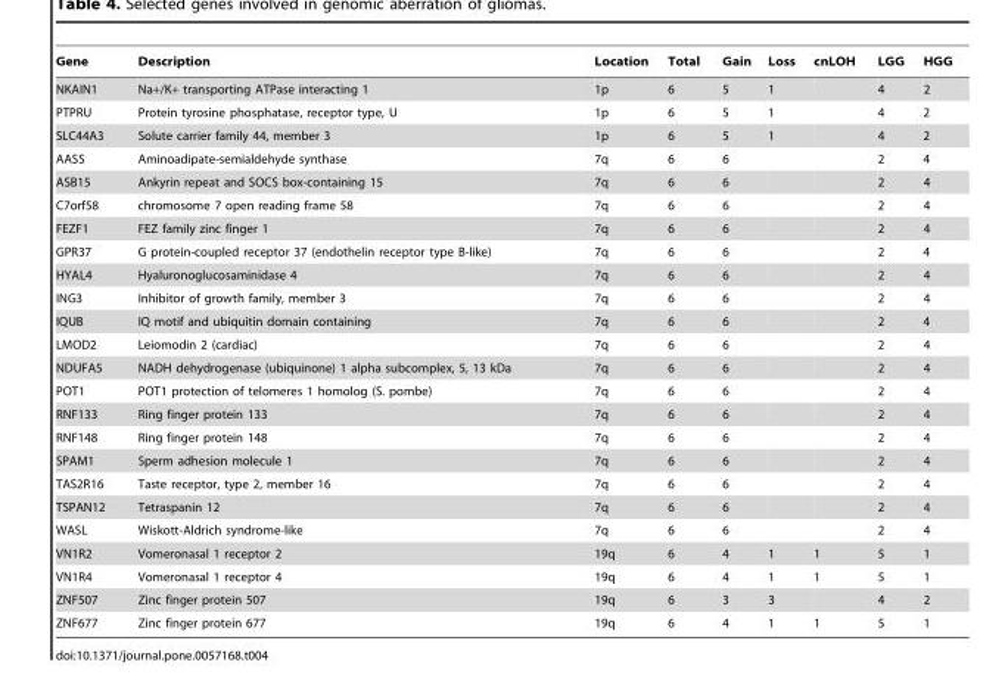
<table><thead><tr><td>Gene</td><td>Description</td><td>Location</td><td>Total</td><td>Gain</td><td>Loss</td><td>cnLOH</td><td>LGG</td><td>HGG</td></tr></thead><tbody><tr><td>NKAIN1</td><td>Na+/K+ transporting ATPase interacting 1</td><td>1p</td><td>6</td><td>5</td><td>1</td><td></td><td>4</td><td>2</td></tr><tr><td>PTPRU</td><td>Protein tyrosine phosphatase, receptor type, U</td><td>1p</td><td>6</td><td>5</td><td>1</td><td></td><td>4</td><td>2</td></tr><tr><td>SLC44A3</td><td>Solute carrier family 44, member 3</td><td>1p</td><td>6</td><td>5</td><td>1</td><td></td><td>4</td><td>2</td></tr><tr><td>AASS</td><td>Aminoadipate-semialdehyde synthase</td><td>7q</td><td>6</td><td>6</td><td></td><td></td><td>2</td><td>4</td></tr><tr><td>ASB15</td><td>Ankyrin repeat and SOCS box-containing 15</td><td>7q</td><td>6</td><td>6</td><td></td><td></td><td>2</td><td>4</td></tr><tr><td>C7orf58</td><td>chromosome 7 open reading frame 58</td><td>7q</td><td>6</td><td>6</td><td></td><td></td><td>2</td><td>4</td></tr><tr><td>FEZF1</td><td>FEZ family zinc finger 1</td><td>7q</td><td>6</td><td>6</td><td></td><td></td><td>2</td><td>4</td></tr><tr><td>GPR37</td><td>G protein-coupled receptor 37 (endothelin receptor type B-like)</td><td>7q</td><td>6</td><td>6</td><td></td><td></td><td>2</td><td>4</td></tr><tr><td>HYAL4</td><td>Hyaluronoglucosaminidase 4</td><td>7q</td><td>6</td><td>6</td><td></td><td></td><td>2</td><td>4</td></tr><tr><td>ING3</td><td>Inhibitor of growth family, member 3</td><td>7q</td><td>6</td><td>6</td><td></td><td></td><td>2</td><td>4</td></tr><tr><td>IQUB</td><td>IQ motif and ubiquitin domain containing</td><td>7q</td><td>6</td><td>6</td><td></td><td></td><td>2</td><td>4</td></tr><tr><td>LMOD2</td><td>Leiomodin 2 (cardiac)</td><td>7q</td><td>6</td><td>6</td><td></td><td></td><td>2</td><td>4</td></tr><tr><td>NDUFA5</td><td>NADH dehydrogenase (ubiquinone) 1 alpha subcomplex, 5, 13 kDa</td><td>7q</td><td>6</td><td>6</td><td></td><td></td><td>2</td><td>4</td></tr><tr><td>POT1</td><td>POT1 protection of telomeres 1 homolog (S. pombe)</td><td>7q</td><td>6</td><td>6</td><td></td><td></td><td>2</td><td>4</td></tr><tr><td>RNF133</td><td>Ring finger protein 133</td><td>7q</td><td>6</td><td>6</td><td></td><td></td><td>2</td><td>4</td></tr><tr><td>RNF148</td><td>Ring finger protein 148</td><td>7q</td><td>6</td><td>6</td><td></td><td></td><td>2</td><td>4</td></tr><tr><td>SPAM1</td><td>Sperm adhesion molecule 1</td><td>7q</td><td>6</td><td>6</td><td></td><td></td><td>2</td><td>4</td></tr><tr><td>TAS2R16</td><td>Taste receptor, type 2, member 16</td><td>7q</td><td>6</td><td>6</td><td></td><td></td><td>2</td><td>4</td></tr><tr><td>TSPAN12</td><td>Tetraspanin 12</td><td>7q</td><td>6</td><td>6</td><td></td><td></td><td>2</td><td>4</td></tr><tr><td>WASL</td><td>Wiskott-Aldrich syndrome-like</td><td>7q</td><td>6</td><td>6</td><td></td><td></td><td>2</td><td>4</td></tr><tr><td>VN1R2</td><td>Vomeronasal 1 receptor 2</td><td>19q</td><td>6</td><td>4</td><td>1</td><td>1</td><td>5</td><td>1</td></tr><tr><td>VN1R4</td><td>Vomeronasal 1 receptor 4</td><td>19q</td><td>6</td><td>4</td><td>1</td><td>1</td><td>5</td><td>1</td></tr><tr><td>ZNF507</td><td>Zinc finger protein 507</td><td>19q</td><td>6</td><td>3</td><td>3</td><td></td><td>4</td><td>2</td></tr><tr><td>ZNF677</td><td>Zinc finger protein 677</td><td>19q</td><td>6</td><td>4</td><td>1</td><td>1</td><td>5</td><td>1</td></tr></tbody></table>